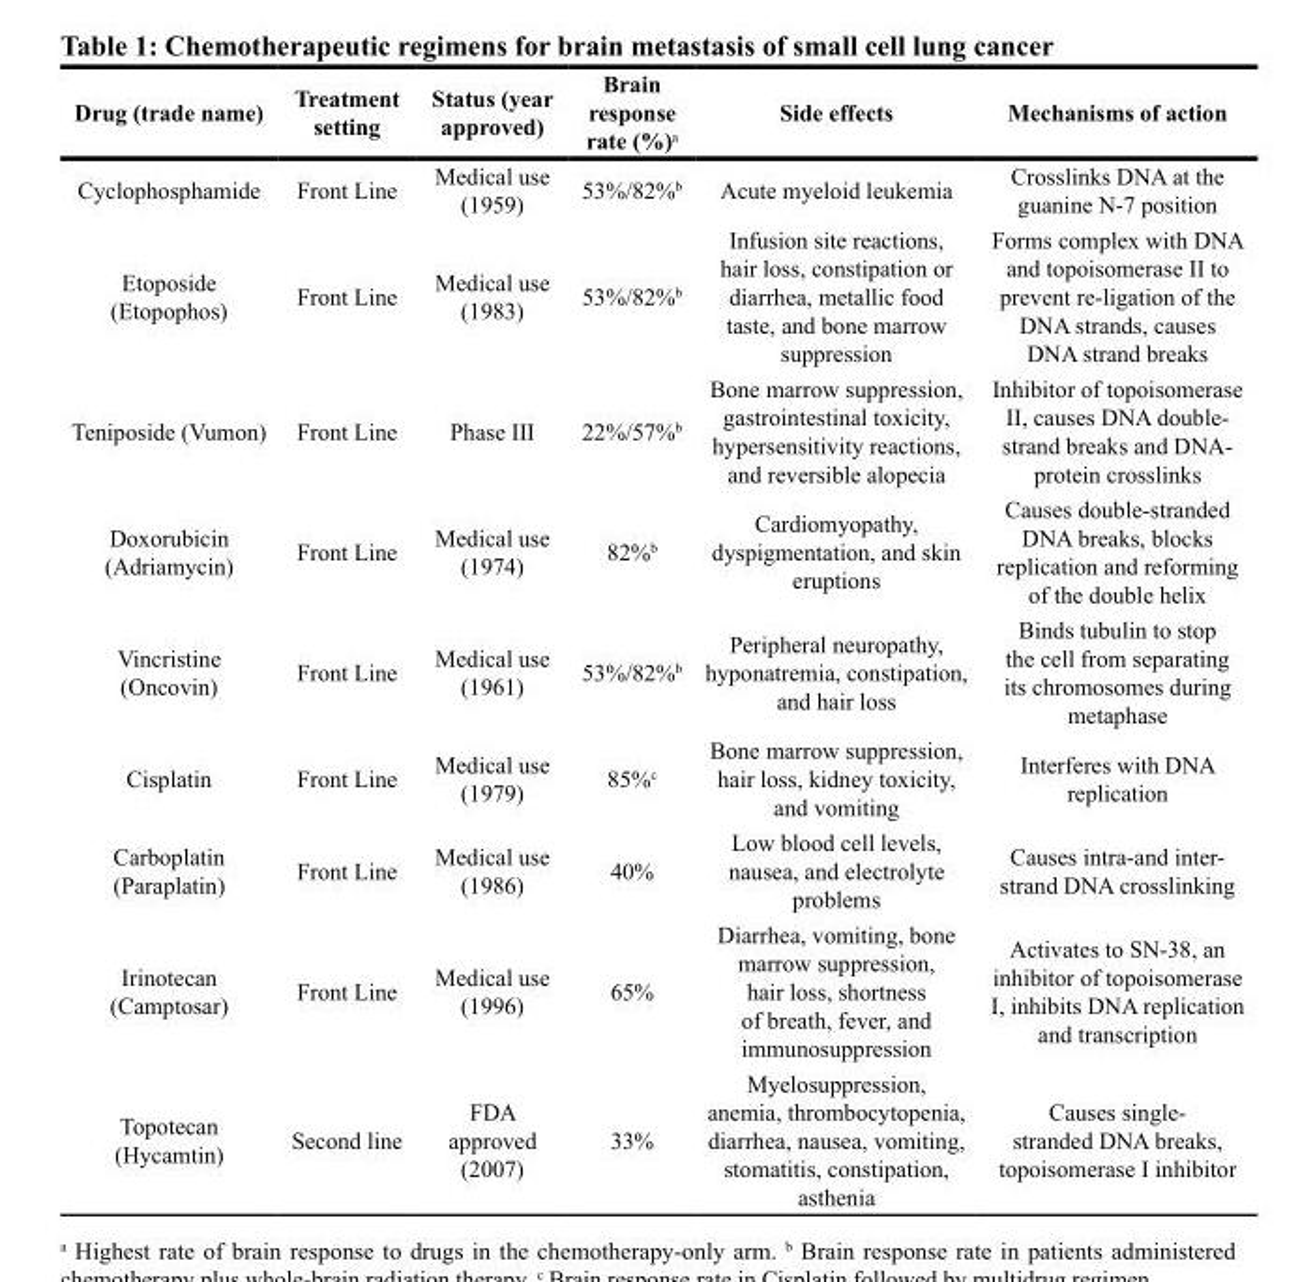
<table><thead><tr><td>Drug (trade name)</td><td>Treatment setting</td><td>Status (year approved)</td><td>Brain response rate (%)<sup>a</sup></td><td>Side effects</td><td>Mechanisms of action</td></tr></thead><tbody><tr><td>Cyclophosphamide</td><td>Front Line</td><td>Medical use (1959)</td><td>53%/82%<sup>b</sup></td><td>Acute myeloid leukemia</td><td>Crosslinks DNA at the guanine N-7 position</td></tr><tr><td>Etoposide (Etopophos)</td><td>Front Line</td><td>Medical use (1983)</td><td>53%/82%<sup>b</sup></td><td>Infusion site reactions, hair loss, constipation or diarrhea, metallic food taste, and bone marrow suppression</td><td>Forms complex with DNA and topoisomerase II to prevent re-ligation of the DNA strands, causes DNA strand breaks</td></tr><tr><td>Teniposide (Vumon)</td><td>Front Line</td><td>Phase III</td><td>22%/57%<sup>b</sup></td><td>Bone marrow suppression, gastrointestinal toxicity, hypersensitivity reactions, and reversible alopecia</td><td>Inhibitor of topoisomerase II, causes DNA double- strand breaks and DNA- protein crosslinks</td></tr><tr><td>Doxorubicin (Adriamycin)</td><td>Front Line</td><td>Medical use (1974)</td><td>82%<sup>b</sup></td><td>Cardiomyopathy, dyspigmentation, and skin eruptions</td><td>Causes double-stranded DNA breaks, blocks replication and reforming of the double helix</td></tr><tr><td>Vincristine (Oncovin)</td><td>Front Line</td><td>Medical use (1961)</td><td>53%/82%<sup>b</sup></td><td>Peripheral neuropathy, hyponatremia, constipation, and hair loss</td><td>Binds tubulin to stop the cell from separating its chromosomes during metaphase</td></tr><tr><td>Cisplatin</td><td>Front Line</td><td>Medical use (1979)</td><td>85%<sup>c</sup></td><td>Bone marrow suppression, hair loss, kidney toxicity, and vomiting</td><td>Interferes with DNA replication</td></tr><tr><td>Carboplatin (Paraplatin)</td><td>Front Line</td><td>Medical use (1986)</td><td>40%</td><td>Low blood cell levels, nausea, and electrolyte problems</td><td>Causes intra-and inter- strand DNA crosslinking</td></tr><tr><td>Irinotecan (Camptosar)</td><td>Front Line</td><td>Medical use (1996)</td><td>65%</td><td>Diarrhea, vomiting, bone marrow suppression, hair loss, shortness of breath, fever, and immunosuppression</td><td>Activates to SN-38, an inhibitor of topoisomerase I, inhibits DNA replication and transcription</td></tr><tr><td>Topotecan (Hycamtin)</td><td>Second line</td><td>FDA approved (2007)</td><td>33%</td><td>Myelosuppression, anemia, thrombocytopenia, diarrhea, nausea, vomiting, stomatitis, constipation, asthenia</td><td>Causes single- stranded DNA breaks, topoisomerase I inhibitor</td></tr></tbody></table>